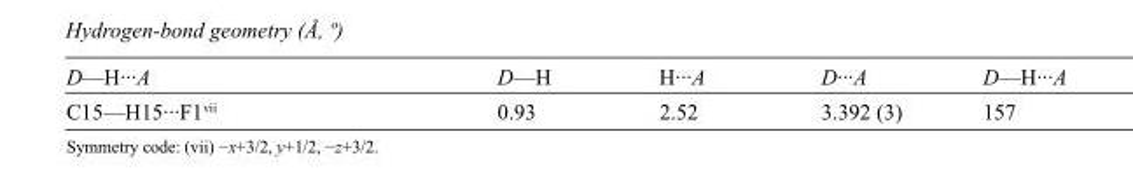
<table><tbody><tr><td>D—H···A</td><td>D—H</td><td>H···A</td><td>D···A</td><td>D—H···A</td></tr><tr><td>C15—H15···F1<sup>vii</sup></td><td>0.93</td><td>2.52</td><td>3.392 (3)</td><td>157</td></tr></tbody></table>